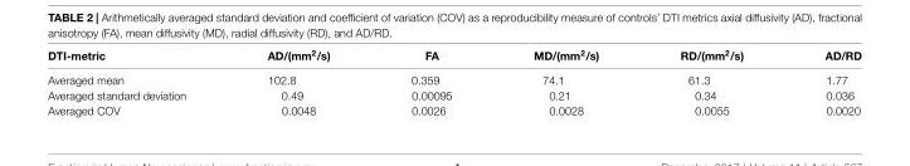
<table><thead><tr><td>DTI-metric</td><td>AD/(mm<sup>2</sup>/s)</td><td>FA</td><td>MD/(mm<sup>2</sup>/s)</td><td>RD/(mm<sup>2</sup>/s)</td><td>AD/RD</td></tr></thead><tbody><tr><td>Averaged mean</td><td>102.8</td><td>0.359</td><td>74.1</td><td>61.3</td><td>1.77</td></tr><tr><td>Averaged standard deviation</td><td>0.49</td><td>0.00095</td><td>0.21</td><td>0.34</td><td>0.036</td></tr><tr><td>Averaged COV</td><td>0.0048</td><td>0.0026</td><td>0.0028</td><td>0.0055</td><td>0.0020</td></tr></tbody></table>